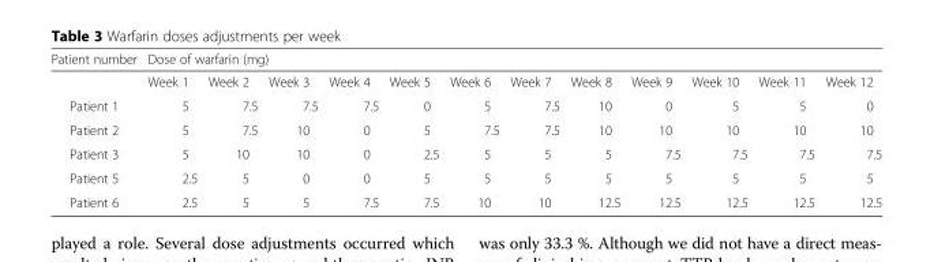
<table><thead><tr><td rowspan="2">Patient number</td><td colspan="12">Dose of warfarin (mg)</td></tr><tr><td>Week 1</td><td>Week 2</td><td>Week 3</td><td>Week 4</td><td>Week 5</td><td>Week 6</td><td>Week 7</td><td>Week 8</td><td>Week 9</td><td>Week 10</td><td>Week 11</td><td>Week 12</td></tr></thead><tbody><tr><td>Patient 1</td><td>5</td><td>7.5</td><td>7.5</td><td>7.5</td><td>0</td><td>5</td><td>7.5</td><td>10</td><td>0</td><td>5</td><td>5</td><td>0</td></tr><tr><td>Patient 2</td><td>5</td><td>7.5</td><td>10</td><td>0</td><td>5</td><td>7.5</td><td>7.5</td><td>10</td><td>10</td><td>10</td><td>10</td><td>10</td></tr><tr><td>Patient 3</td><td>5</td><td>10</td><td>10</td><td>0</td><td>2.5</td><td>5</td><td>5</td><td>5</td><td>7.5</td><td>7.5</td><td>7.5</td><td>7.5</td></tr><tr><td>Patient 5</td><td>2.5</td><td>5</td><td>0</td><td>0</td><td>5</td><td>5</td><td>5</td><td>5</td><td>5</td><td>5</td><td>5</td><td>5</td></tr><tr><td>Patient 6</td><td>2.5</td><td>5</td><td>5</td><td>7.5</td><td>7.5</td><td>10</td><td>10</td><td>12.5</td><td>12.5</td><td>12.5</td><td>12.5</td><td>12.5</td></tr></tbody></table>